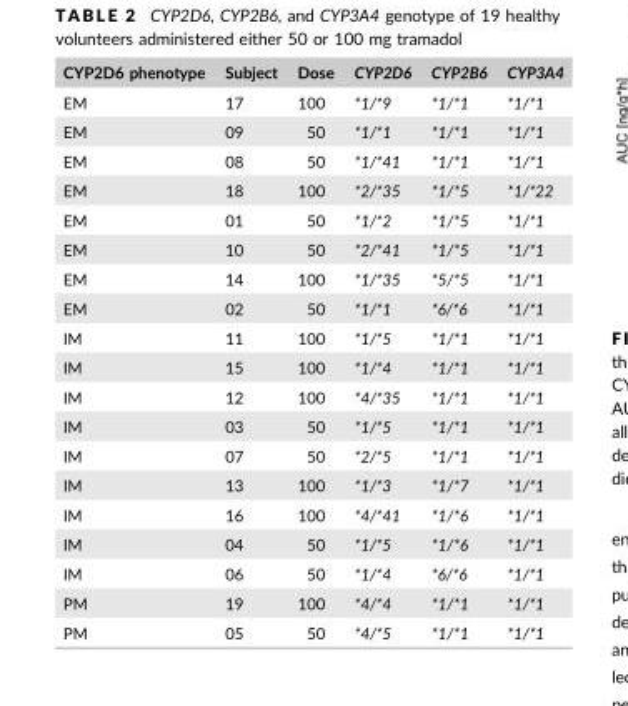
<table><thead><tr><td>CYP2D6 phenotype</td><td>Subject</td><td>Dose</td><td>CYP2D6</td><td>CYP2B6</td><td>CYP3A4</td></tr></thead><tbody><tr><td>EM</td><td>17</td><td>100</td><td>*1/*9</td><td>*1/*1</td><td>*1/*1</td></tr><tr><td>EM</td><td>09</td><td>50</td><td>*1/*1</td><td>*1/*1</td><td>*1/*1</td></tr><tr><td>EM</td><td>08</td><td>50</td><td>*1/*41</td><td>*1/*1</td><td>*1/*1</td></tr><tr><td>EM</td><td>18</td><td>100</td><td>*2/*35</td><td>*1/*5</td><td>*1/*22</td></tr><tr><td>EM</td><td>01</td><td>50</td><td>*1/*2</td><td>*1/*5</td><td>*1/*1</td></tr><tr><td>EM</td><td>10</td><td>50</td><td>*2/*41</td><td>*1/*5</td><td>*1/*1</td></tr><tr><td>EM</td><td>14</td><td>100</td><td>*1/*35</td><td>*5/*5</td><td>*1/*1</td></tr><tr><td>EM</td><td>02</td><td>50</td><td>*1/*1</td><td>*6/*6</td><td>*1/*1</td></tr><tr><td>IM</td><td>11</td><td>100</td><td>*1/*5</td><td>*1/*1</td><td>*1/*1</td></tr><tr><td>IM</td><td>15</td><td>100</td><td>*1/*4</td><td>*1/*1</td><td>*1/*1</td></tr><tr><td>IM</td><td>12</td><td>100</td><td>*4/*35</td><td>*1/*1</td><td>*1/*1</td></tr><tr><td>IM</td><td>03</td><td>50</td><td>*1/*5</td><td>*1/*1</td><td>*1/*1</td></tr><tr><td>IM</td><td>07</td><td>50</td><td>*2/*5</td><td>*1/*1</td><td>*1/*1</td></tr><tr><td>IM</td><td>13</td><td>100</td><td>*1/*3</td><td>*1/*7</td><td>*1/*1</td></tr><tr><td>IM</td><td>16</td><td>100</td><td>*4/*41</td><td>*1/*6</td><td>*1/*1</td></tr><tr><td>IM</td><td>04</td><td>50</td><td>*1/*5</td><td>*1/*6</td><td>*1/*1</td></tr><tr><td>IM</td><td>06</td><td>50</td><td>*1/*4</td><td>*6/*6</td><td>*1/*1</td></tr><tr><td>PM</td><td>19</td><td>100</td><td>*4/*4</td><td>*1/*1</td><td>*1/*1</td></tr><tr><td>PM</td><td>05</td><td>50</td><td>*4/*5</td><td>*1/*1</td><td>*1/*1</td></tr></tbody></table>